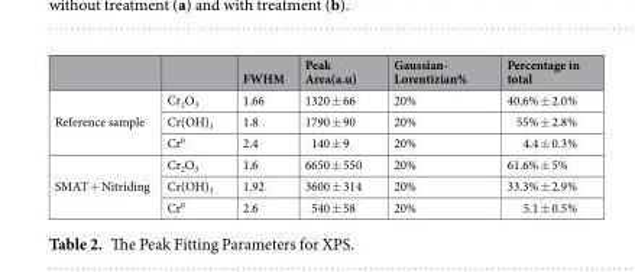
<table><thead><tr><td></td><td></td><td>FWHM</td><td>Peak Area(a.u)</td><td>Gaussian- Lorentizian%</td><td>Percentage in total</td></tr></thead><tbody><tr><td rowspan="3">Reference sample</td><td>Cr<sub>2</sub>O<sub>3</sub></td><td>1.66</td><td>1320 ± 66</td><td>20%</td><td>40.6% ± 2.0%</td></tr><tr><td>Cr(OH)<sub>3</sub></td><td>1.8</td><td>1790 ± 90</td><td>20%</td><td>55% ± 2.8%</td></tr><tr><td>Cr<sup>0</sup></td><td>2.4</td><td>140 ± 9</td><td>20%</td><td>4.4 ± 0.3%</td></tr><tr><td rowspan="3">SMAT + Nitriding</td><td>Cr<sub>2</sub>O<sub>3</sub></td><td>1.6</td><td>6650 ± 550</td><td>20%</td><td>61.6% ± 5%</td></tr><tr><td>Cr(OH)<sub>3</sub></td><td>1.92</td><td>3600 ± 314</td><td>20%</td><td>33.3% ± 2.9%</td></tr><tr><td>Cr<sup>0</sup></td><td>2.6</td><td>540 ± 58</td><td>20%</td><td>5.1 ± 0.5%</td></tr></tbody></table>